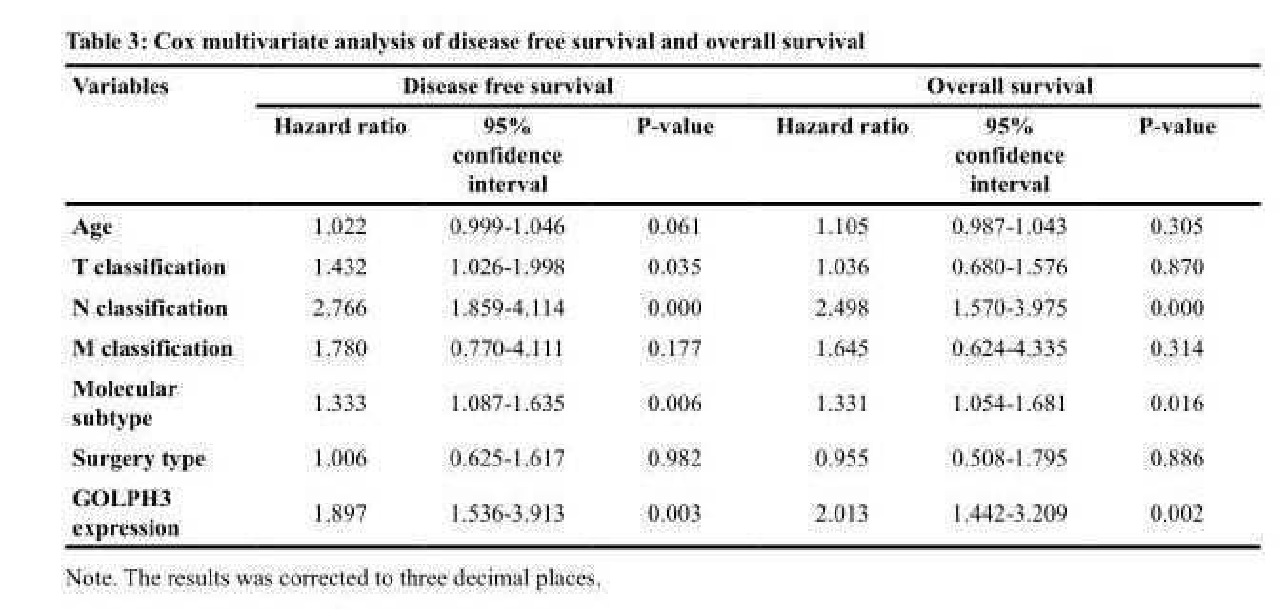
<table><thead><tr><td rowspan="2">Variables</td><td colspan="3">Disease free survival</td><td colspan="3">Overall survival</td></tr><tr><td>Hazard ratio</td><td>95% confidence interval</td><td>P-value</td><td>Hazard ratio</td><td>95% confidence interval</td><td>P-value</td></tr></thead><tbody><tr><td>Age</td><td>1.022</td><td>0.999-1.046</td><td>0.061</td><td>1.105</td><td>0.987-1.043</td><td>0.305</td></tr><tr><td>T classification</td><td>1.432</td><td>1.026-1.998</td><td>0.035</td><td>1.036</td><td>0.680-1.576</td><td>0.870</td></tr><tr><td>N classification</td><td>2.766</td><td>1.859-4.114</td><td>0.000</td><td>2.498</td><td>1.570-3.975</td><td>0.000</td></tr><tr><td>M classification</td><td>1.780</td><td>0.770-4.111</td><td>0.177</td><td>1.645</td><td>0.624-4.335</td><td>0.314</td></tr><tr><td>Molecular subtype</td><td>1.333</td><td>1.087-1.635</td><td>0.006</td><td>1.331</td><td>1.054-1.681</td><td>0.016</td></tr><tr><td>Surgery type</td><td>1.006</td><td>0.625-1.617</td><td>0.982</td><td>0.955</td><td>0.508-1.795</td><td>0.886</td></tr><tr><td>GOLPH3 expression</td><td>1.897</td><td>1.536-3.913</td><td>0.003</td><td>2.013</td><td>1.442-3.209</td><td>0.002</td></tr></tbody></table>